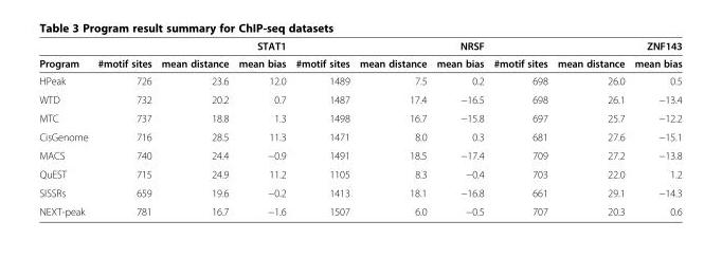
<table><thead><tr><td rowspan="2">Program</td><td colspan="3">STAT1</td><td colspan="3">NRSF</td><td colspan="3">ZNF143</td></tr><tr><td>#motif sites</td><td>mean distance</td><td>mean bias</td><td>#motif sites</td><td>mean distance</td><td>mean bias</td><td>#motif sites</td><td>mean distance</td><td>mean bias</td></tr></thead><tbody><tr><td>HPeak</td><td>726</td><td>23.6</td><td>12.0</td><td>1489</td><td>7.5</td><td>0.2</td><td>698</td><td>26.0</td><td>0.5</td></tr><tr><td>WTD</td><td>732</td><td>20.2</td><td>0.7</td><td>1487</td><td>17.4</td><td>−16.5</td><td>698</td><td>26.1</td><td>−13.4</td></tr><tr><td>MTC</td><td>737</td><td>18.8</td><td>1.3</td><td>1498</td><td>16.7</td><td>−15.8</td><td>697</td><td>25.7</td><td>−12.2</td></tr><tr><td>CisGenome</td><td>716</td><td>28.5</td><td>11.3</td><td>1471</td><td>8.0</td><td>0.3</td><td>681</td><td>27.6</td><td>−15.1</td></tr><tr><td>MACS</td><td>740</td><td>24.4</td><td>−0.9</td><td>1491</td><td>18.5</td><td>−17.4</td><td>709</td><td>27.2</td><td>−13.8</td></tr><tr><td>QuEST</td><td>715</td><td>24.9</td><td>11.2</td><td>1105</td><td>8.3</td><td>−0.4</td><td>703</td><td>22.0</td><td>1.2</td></tr><tr><td>SISSRs</td><td>659</td><td>19.6</td><td>−0.2</td><td>1413</td><td>18.1</td><td>−16.8</td><td>661</td><td>29.1</td><td>−14.3</td></tr><tr><td>NEXT-peak</td><td>781</td><td>16.7</td><td>−1.6</td><td>1507</td><td>6.0</td><td>−0.5</td><td>707</td><td>20.3</td><td>0.6</td></tr></tbody></table>